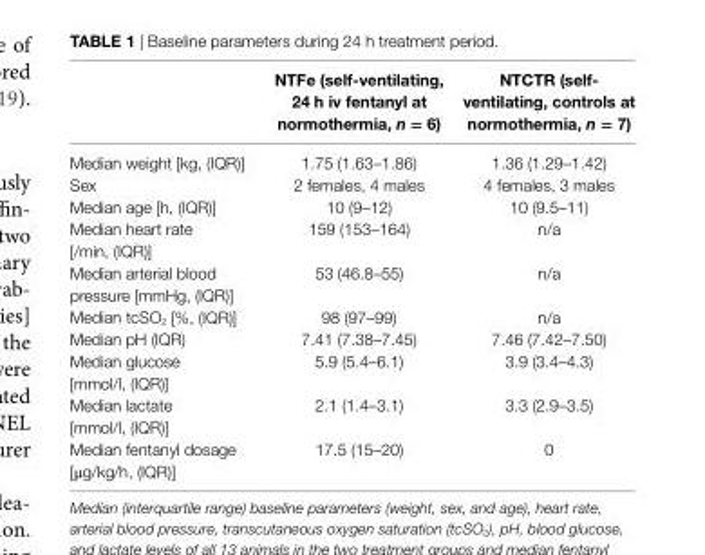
<table><thead><tr><td></td><td>nTFe (self-ventilating, 24 h iv fentanyl at normothermia, n = 6)</td><td>nTcTr (self- ventilating, controls at normothermia, n = 7)</td></tr></thead><tbody><tr><td>Median weight [kg, (IQR)]</td><td>1.75 (1.63–1.86)</td><td>1.36 (1.29–1.42)</td></tr><tr><td>Sex</td><td>2 females, 4 males</td><td>4 females, 3 males</td></tr><tr><td>Median age [h, (IQR)]</td><td>10 (9–12)</td><td>10 (9.5–11)</td></tr><tr><td>Median heart rate [/min, (IQR)]</td><td>159 (153–164)</td><td>n/a</td></tr><tr><td>Median arterial blood pressure [mmHg, (IQR)]</td><td>53 (46.8–55)</td><td>n/a</td></tr><tr><td>Median tcSO<sub>2</sub> [%, (IQR)]</td><td>98 (97–99)</td><td>n/a</td></tr><tr><td>Median pH (IQR)</td><td>7.41 (7.38–7.45)</td><td>7.46 (7.42–7.50)</td></tr><tr><td>Median glucose [mmol/l, (IQR)]</td><td>5.9 (5.4–6.1)</td><td>3.9 (3.4–4.3)</td></tr><tr><td>Median lactate [mmol/l, (IQR)]</td><td>2.1 (1.4–3.1)</td><td>3.3 (2.9–3.5)</td></tr><tr><td>Median fentanyl dosage [μg/kg/h, (IQR)]</td><td>17.5 (15–20)</td><td>0</td></tr></tbody></table>